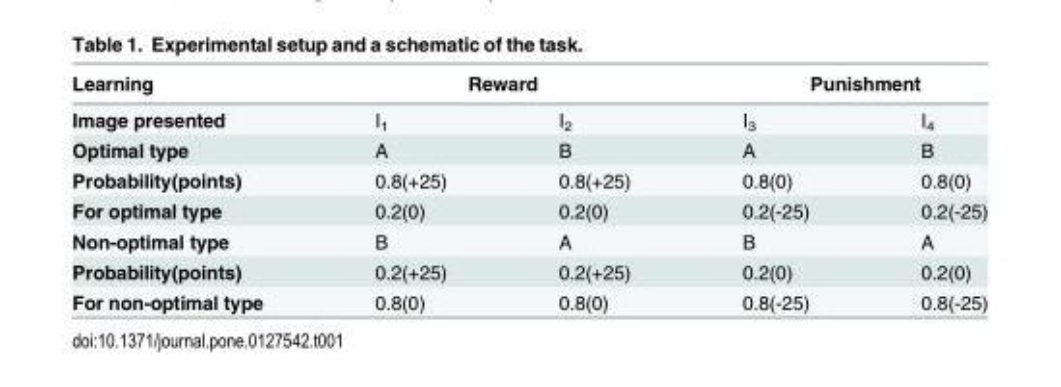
<table><thead><tr><td rowspan="2">Learning Image presented</td><td colspan="2">Reward</td><td colspan="2">Punishment</td></tr><tr><td>I<sub>1</sub></td><td>I<sub>2</sub></td><td>I<sub>3</sub></td><td>I<sub>4</sub></td></tr></thead><tbody><tr><td>Optimal type</td><td>A</td><td>B</td><td>A</td><td>B</td></tr><tr><td>Probability(points)</td><td>0.8(+25)</td><td>0.8(+25)</td><td>0.8(0)</td><td>0.8(0)</td></tr><tr><td>For optimal type</td><td>0.2(0)</td><td>0.2(0)</td><td>0.2(-25)</td><td>0.2(-25)</td></tr><tr><td>Non-optimal type</td><td>B</td><td>A</td><td>B</td><td>A</td></tr><tr><td>Probability(points)</td><td>0.2(+25)</td><td>0.2(+25)</td><td>0.2(0)</td><td>0.2(0)</td></tr><tr><td>For non-optimal type</td><td>0.8(0)</td><td>0.8(0)</td><td>0.8(-25)</td><td>0.8(-25)</td></tr></tbody></table>